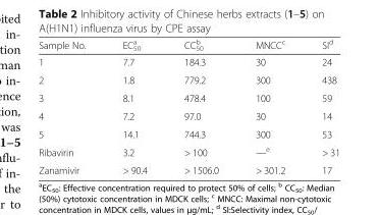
<table><thead><tr><td>Sample No.</td><td>EC<sub>50</sub> <sup>a</sup></td><td>CC<sub>50</sub> <sup>b</sup></td><td>MNCC<sup>c</sup></td><td>SI<sup>d</sup></td></tr></thead><tbody><tr><td>1</td><td>7.7</td><td>184.3</td><td>30</td><td>24</td></tr><tr><td>2</td><td>1.8</td><td>779.2</td><td>300</td><td>438</td></tr><tr><td>3</td><td>8.1</td><td>478.4</td><td>100</td><td>59</td></tr><tr><td>4</td><td>7.2</td><td>97.0</td><td>30</td><td>14</td></tr><tr><td>5</td><td>14.1</td><td>744.3</td><td>300</td><td>53</td></tr><tr><td>Ribavirin</td><td>3.2</td><td>&gt; 100</td><td>—<sup>e</sup></td><td>&gt; 31</td></tr><tr><td>Zanamivir</td><td>&gt; 90.4</td><td>&gt; 1506.0</td><td>&gt; 301.2</td><td>17</td></tr></tbody></table>